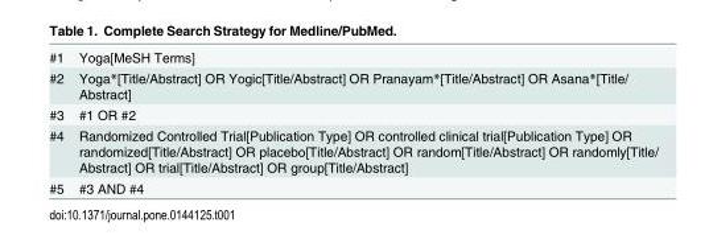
<table><tbody><tr><td>#1</td><td>Yoga[MeSH Terms]</td></tr><tr><td>#2</td><td>Yoga*[Title/Abstract] OR Yogic[Title/Abstract] OR Pranayam*[Title/Abstract] OR Asana*[Title/ Abstract]</td></tr><tr><td>#3</td><td>#1 OR #2</td></tr><tr><td>#4</td><td>Randomized Controlled Trial[Publication Type] OR controlled clinical trial[Publication Type] OR randomized[Title/Abstract] OR placebo[Title/Abstract] OR random[Title/Abstract] OR randomly[Title/ Abstract] OR trial[Title/Abstract] OR group[Title/Abstract]</td></tr><tr><td>#5</td><td>#3 AND #4</td></tr></tbody></table>